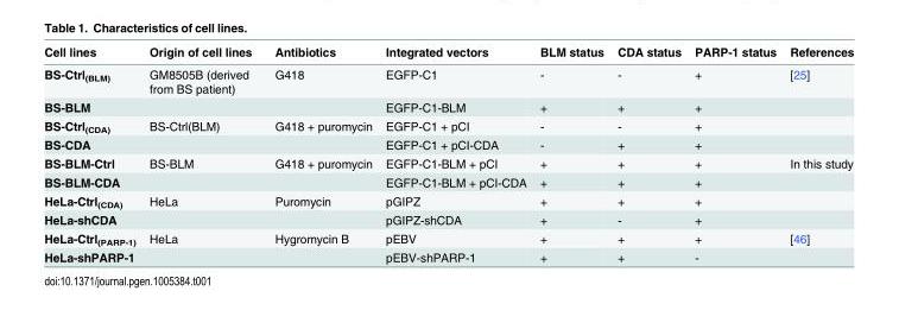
<table><thead><tr><td>Cell lines</td><td>Origin of cell lines</td><td>Antibiotics</td><td>Integrated vectors</td><td>BLM status</td><td>CDA status</td><td>PARP-1 status</td><td>References</td></tr></thead><tbody><tr><td>BS-Ctrl<sub>(BLM)</sub></td><td>GM8505B (derived from BS patient)</td><td>G418</td><td>EGFP-C1</td><td>-</td><td>-</td><td>+</td><td>[25]</td></tr><tr><td>BS-BLM</td><td></td><td></td><td>EGFP-C1-BLM</td><td>+</td><td>+</td><td>+</td><td></td></tr><tr><td>BS-Ctrl<sub>(CDA)</sub></td><td>BS-Ctrl(BLM)</td><td>G418 + puromycin</td><td>EGFP-C1 + pCI</td><td>-</td><td>-</td><td>+</td><td></td></tr><tr><td>BS-CDA</td><td></td><td></td><td>EGFP-C1 + pCI-CDA</td><td>-</td><td>+</td><td>+</td><td></td></tr><tr><td>BS-BLM-Ctrl</td><td>BS-BLM</td><td>G418 + puromycin</td><td>EGFP-C1-BLM + pCI</td><td>+</td><td>+</td><td>+</td><td>In this study</td></tr><tr><td>BS-BLM-CDA</td><td></td><td></td><td>EGFP-C1-BLM + pCI-CDA</td><td>+</td><td>+</td><td>+</td><td></td></tr><tr><td>HeLa-Ctrl<sub>(CDA)</sub></td><td>HeLa</td><td>Puromycin</td><td>pGIPZ</td><td>+</td><td>+</td><td>+</td><td></td></tr><tr><td>HeLa-shCDA</td><td></td><td></td><td>pGIPZ-shCDA</td><td>+</td><td>-</td><td>+</td><td></td></tr><tr><td>HeLa-Ctrl<sub>(PARP-1)</sub></td><td>HeLa</td><td>Hygromycin B</td><td>pEBV</td><td>+</td><td>+</td><td>+</td><td>[46]</td></tr><tr><td>HeLa-shPARP-1</td><td></td><td></td><td>pEBV-shPARP-1</td><td>+</td><td>+</td><td>-</td><td></td></tr></tbody></table>